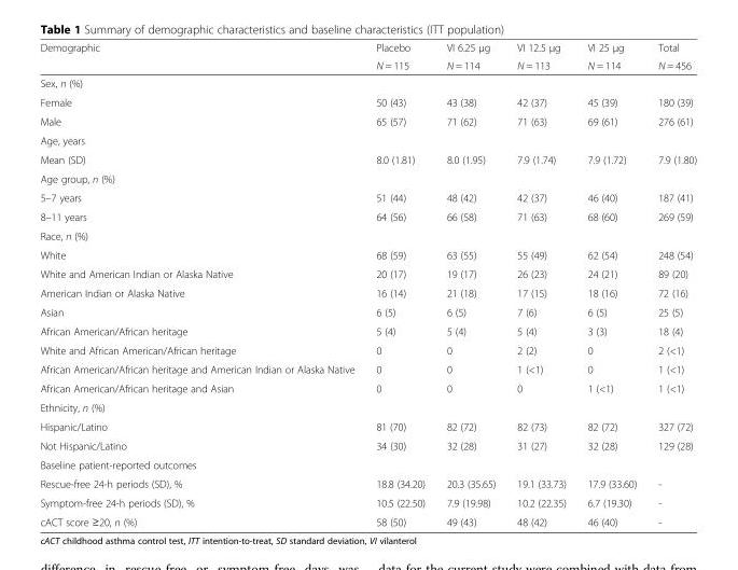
<table><thead><tr><td rowspan="2">Demographic</td><td rowspan="2">Placebo N = 115</td><td rowspan="2">VI 6.25 μg N = 114</td><td rowspan="2">VI 12.5 μg N = 113</td><td rowspan="2">VI 25 μg N = 114</td><td rowspan="2">Total N = 456</td></tr><tr></tr></thead><tbody><tr><td colspan="6">Sex, n (%)</td></tr><tr><td>Female</td><td>50 (43)</td><td>43 (38)</td><td>42 (37)</td><td>45 (39)</td><td>180 (39)</td></tr><tr><td>Male</td><td>65 (57)</td><td>71 (62)</td><td>71 (63)</td><td>69 (61)</td><td>276 (61)</td></tr><tr><td colspan="6">Age, years</td></tr><tr><td>Mean (SD)</td><td>8.0 (1.81)</td><td>8.0 (1.95)</td><td>7.9 (1.74)</td><td>7.9 (1.72)</td><td>7.9 (1.80)</td></tr><tr><td colspan="6">Age group, n (%)</td></tr><tr><td>5–7 years</td><td>51 (44)</td><td>48 (42)</td><td>42 (37)</td><td>46 (40)</td><td>187 (41)</td></tr><tr><td>8–11 years</td><td>64 (56)</td><td>66 (58)</td><td>71 (63)</td><td>68 (60)</td><td>269 (59)</td></tr><tr><td colspan="6">Race, n (%)</td></tr><tr><td>White</td><td>68 (59)</td><td>63 (55)</td><td>55 (49)</td><td>62 (54)</td><td>248 (54)</td></tr><tr><td>White and American Indian or Alaska Native</td><td>20 (17)</td><td>19 (17)</td><td>26 (23)</td><td>24 (21)</td><td>89 (20)</td></tr><tr><td>American Indian or Alaska Native</td><td>16 (14)</td><td>21 (18)</td><td>17 (15)</td><td>18 (16)</td><td>72 (16)</td></tr><tr><td>Asian</td><td>6 (5)</td><td>6 (5)</td><td>7 (6)</td><td>6 (5)</td><td>25 (5)</td></tr><tr><td>African American/African heritage</td><td>5 (4)</td><td>5 (4)</td><td>5 (4)</td><td>3 (3)</td><td>18 (4)</td></tr><tr><td>White and African American/African heritage</td><td>0</td><td>0</td><td>2 (2)</td><td>0</td><td>2 (&lt;1)</td></tr><tr><td>African American/African heritage and American Indian or Alaska Native</td><td>0</td><td>0</td><td>1 (&lt;1)</td><td>0</td><td>1 (&lt;1)</td></tr><tr><td>African American/African heritage and Asian</td><td>0</td><td>0</td><td>0</td><td>1 (&lt;1)</td><td>1 (&lt;1)</td></tr><tr><td colspan="6">Ethnicity, n (%)</td></tr><tr><td>Hispanic/Latino</td><td>81 (70)</td><td>82 (72)</td><td>82 (73)</td><td>82 (72)</td><td>327 (72)</td></tr><tr><td>Not Hispanic/Latino</td><td>34 (30)</td><td>32 (28)</td><td>31 (27)</td><td>32 (28)</td><td>129 (28)</td></tr><tr><td colspan="6">Baseline patient-reported outcomes</td></tr><tr><td>Rescue-free 24-h periods (SD), %</td><td>18.8 (34.20)</td><td>20.3 (35.65)</td><td>19.1 (33.73)</td><td>17.9 (33.60)</td><td>-</td></tr><tr><td>Symptom-free 24-h periods (SD), %</td><td>10.5 (22.50)</td><td>7.9 (19.98)</td><td>10.2 (22.35)</td><td>6.7 (19.30)</td><td>-</td></tr><tr><td>cACT score ≥20, n (%)</td><td>58 (50)</td><td>49 (43)</td><td>48 (42)</td><td>46 (40)</td><td>-</td></tr></tbody></table>